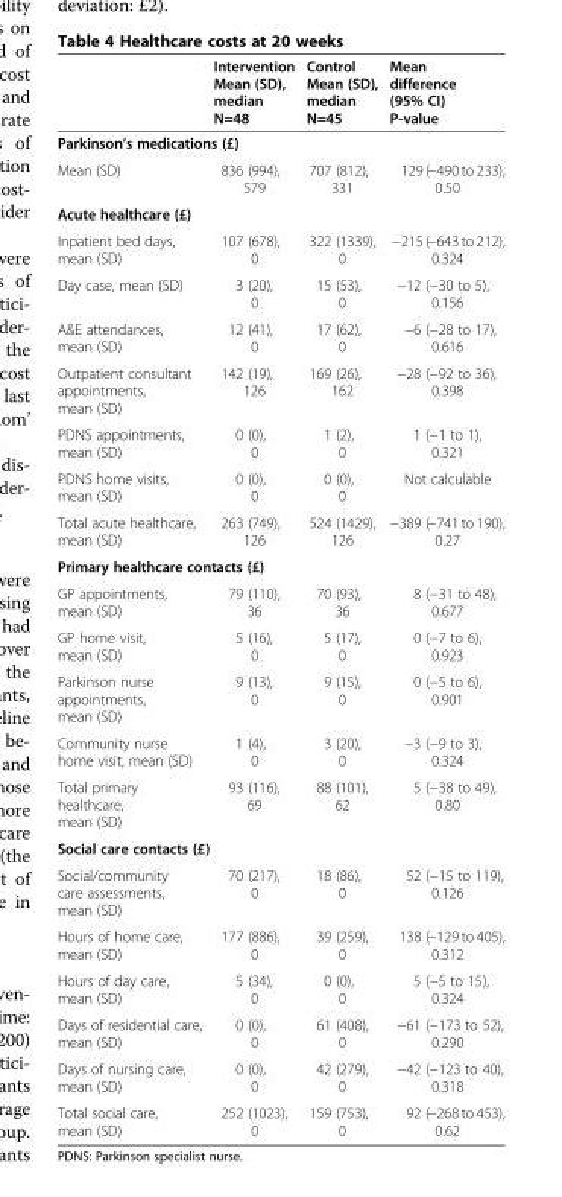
<table><thead><tr><td></td><td>Intervention Mean (SD), median N=48</td><td>Control Mean (SD), median N=45</td><td>Mean difference (95% CI) P-value</td></tr></thead><tbody><tr><td colspan="4">Parkinson’s medications (£)</td></tr><tr><td>Mean (SD)</td><td>836 (994), 579</td><td>707 (812), 331</td><td>129 (−490 to 233), 0.50</td></tr><tr><td colspan="4">Acute healthcare (£)</td></tr><tr><td>Inpatient bed days, mean (SD)</td><td>107 (678), 0</td><td>322 (1339), 0</td><td>−215 (−643 to 212), 0.324</td></tr><tr><td>Day case, mean (SD)</td><td>3 (20), 0</td><td>15 (53), 0</td><td>−12 (−30 to 5), 0.156</td></tr><tr><td>A&amp;E attendances, mean (SD)</td><td>12 (41), 0</td><td>17 (62), 0</td><td>−6 (−28 to 17), 0.616</td></tr><tr><td>Outpatient consultant appointments, mean (SD)</td><td>142 (19), 126</td><td>169 (26), 162</td><td>−28 (−92 to 36), 0.398</td></tr><tr><td>PDNS appointments, mean (SD)</td><td>0 (0), 0</td><td>1 (2), 0</td><td>1 (−1 to 1), 0.321</td></tr><tr><td>PDNS home visits, mean (SD)</td><td>0 (0), 0</td><td>0 (0), 0</td><td>Not calculable</td></tr><tr><td>Total acute healthcare, mean (SD)</td><td>263 (749), 126</td><td>524 (1429), 126</td><td>−389 (−741 to 190), 0.27</td></tr><tr><td colspan="4">Primary healthcare contacts (£)</td></tr><tr><td>GP appointments, mean (SD)</td><td>79 (110), 36</td><td>70 (93), 36</td><td>8 (−31 to 48), 0.677</td></tr><tr><td>GP home visit, mean (SD)</td><td>5 (16), 0</td><td>5 (17), 0</td><td>0 (−7 to 6), 0.923</td></tr><tr><td>Parkinson nurse appointments, mean (SD)</td><td>9 (13), 0</td><td>9 (15), 0</td><td>0 (−5 to 6), 0.901</td></tr><tr><td>Community nurse home visit, mean (SD)</td><td>1 (4), 0</td><td>3 (20), 0</td><td>−3 (−9 to 3), 0.324</td></tr><tr><td>Total primary healthcare, mean (SD)</td><td>93 (116), 69</td><td>88 (101), 62</td><td>5 (−38 to 49), 0.80</td></tr><tr><td colspan="4">Social care contacts (£)</td></tr><tr><td>Social/community care assessments, mean (SD)</td><td>70 (217), 0</td><td>18 (86), 0</td><td>52 (−15 to 119), 0.126</td></tr><tr><td>Hours of home care, mean (SD)</td><td>177 (886), 0</td><td>39 (259), 0</td><td>138 (−129 to 405), 0.312</td></tr><tr><td>Hours of day care, mean (SD)</td><td>5 (34), 0</td><td>0 (0), 0</td><td>5 (−5 to 15), 0.324</td></tr><tr><td>Days of residential care, mean (SD)</td><td>0 (0), 0</td><td>61 (408), 0</td><td>−61 (−173 to 52), 0.290</td></tr><tr><td>Days of nursing care, mean (SD)</td><td>0 (0), 0</td><td>42 (279), 0</td><td>−42 (−123 to 40), 0.318</td></tr><tr><td>Total social care, mean (SD)</td><td>252 (1023), 0</td><td>159 (753), 0</td><td>92 (−268 to 453), 0.62</td></tr></tbody></table>